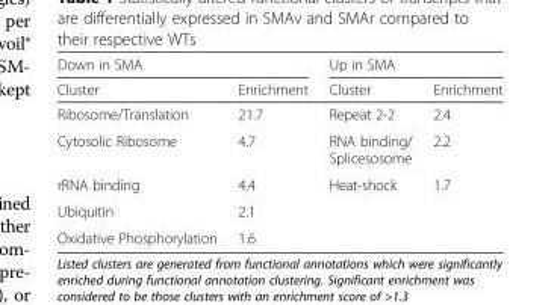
<table><thead><tr><td colspan="2">Down in SMA</td><td colspan="2">Up in SMA</td></tr><tr><td>Cluster</td><td>Enrichment</td><td>Cluster</td><td>Enrichment</td></tr></thead><tbody><tr><td>Ribosome/Translation</td><td>21.7</td><td>Repeat 2-2</td><td>2.4</td></tr><tr><td>Cytosolic Ribosome</td><td>4.7</td><td>RNA binding/ Splicesosome</td><td>2.2</td></tr><tr><td>rRNA binding</td><td>4.4</td><td>Heat-shock</td><td>1.7</td></tr><tr><td>Ubiquitin</td><td>2.1</td><td></td><td></td></tr><tr><td>Oxidative Phosphorylation</td><td>1.6</td><td></td><td></td></tr></tbody></table>